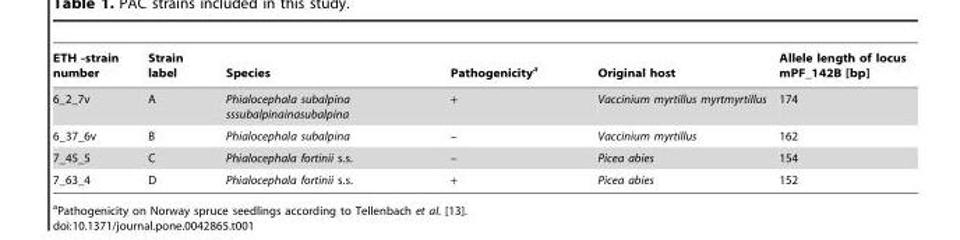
<table><thead><tr><td>ETH -strain number</td><td>Strain label</td><td>Species</td><td>Pathogenicity<sup>a</sup></td><td>Original host</td><td>Allele length of locus mPF_142B [bp]</td></tr></thead><tbody><tr><td>6_2_7v</td><td>A</td><td>Phialocephala subalpina sssubalpinainasubalpina</td><td>+</td><td>Vaccinium myrtillus myrtmyrtillus</td><td>174</td></tr><tr><td>6_37_6v</td><td>B</td><td>Phialocephala subalpina</td><td>–</td><td>Vaccinium myrtillus</td><td>162</td></tr><tr><td>7_45_5</td><td>C</td><td>Phialocephala fortinii s.s.</td><td>–</td><td>Picea abies</td><td>154</td></tr><tr><td>7_63_4</td><td>D</td><td>Phialocephala fortinii s.s.</td><td>+</td><td>Picea abies</td><td>152</td></tr></tbody></table>